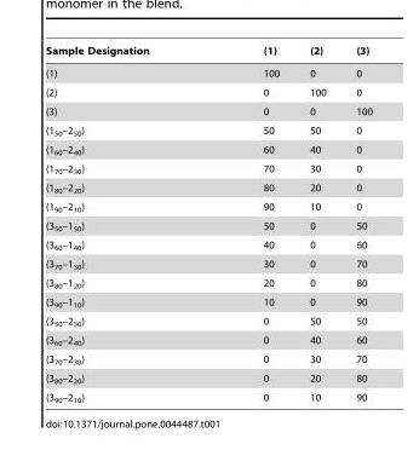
<table><thead><tr><td>Sample Designation</td><td>(1)</td><td>(2)</td><td>(3)</td></tr></thead><tbody><tr><td>(1)</td><td>100</td><td>0</td><td>0</td></tr><tr><td>(2)</td><td>0</td><td>100</td><td>0</td></tr><tr><td>(3)</td><td>0</td><td>0</td><td>100</td></tr><tr><td>(1<sub>50</sub>–2<sub>50</sub>)</td><td>50</td><td>50</td><td>0</td></tr><tr><td>(1<sub>60</sub>–2<sub>40</sub>)</td><td>60</td><td>40</td><td>0</td></tr><tr><td>(1<sub>70</sub>–2<sub>30</sub>)</td><td>70</td><td>30</td><td>0</td></tr><tr><td>(1<sub>80</sub>–2<sub>20</sub>)</td><td>80</td><td>20</td><td>0</td></tr><tr><td>(1<sub>90</sub>–2<sub>10</sub>)</td><td>90</td><td>10</td><td>0</td></tr><tr><td>(3<sub>50</sub>–1<sub>50</sub>)</td><td>50</td><td>0</td><td>50</td></tr><tr><td>(3<sub>60</sub>–1<sub>40</sub>)</td><td>40</td><td>0</td><td>60</td></tr><tr><td>(3<sub>70</sub>–1<sub>30</sub>)</td><td>30</td><td>0</td><td>70</td></tr><tr><td>(3<sub>80</sub>–1<sub>20</sub>)</td><td>20</td><td>0</td><td>80</td></tr><tr><td>(3<sub>90</sub>–1<sub>10</sub>)</td><td>10</td><td>0</td><td>90</td></tr><tr><td>(3<sub>50</sub>–2<sub>50</sub>)</td><td>0</td><td>50</td><td>50</td></tr><tr><td>(3<sub>60</sub>–2<sub>40</sub>)</td><td>0</td><td>40</td><td>60</td></tr><tr><td>(3<sub>70</sub>–2<sub>30</sub>)</td><td>0</td><td>30</td><td>70</td></tr><tr><td>(3<sub>80</sub>–2<sub>20</sub>)</td><td>0</td><td>20</td><td>80</td></tr><tr><td>(3<sub>90</sub>–2<sub>10</sub>)</td><td>0</td><td>10</td><td>90</td></tr></tbody></table>